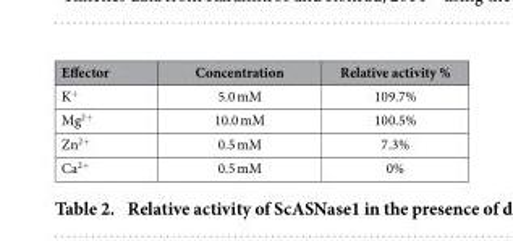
<table><thead><tr><td>Effector</td><td>Concentration</td><td>Relative activity %</td></tr></thead><tbody><tr><td>K<sup>+</sup></td><td>5.0 mM</td><td>109.7%</td></tr><tr><td>Mg<sup>2+</sup></td><td>10.0 mM</td><td>100.5%</td></tr><tr><td>Zn<sup>2+</sup></td><td>0.5 mM</td><td>7.3%</td></tr><tr><td>Ca<sup>2+</sup></td><td>0.5 mM</td><td>0%</td></tr></tbody></table>